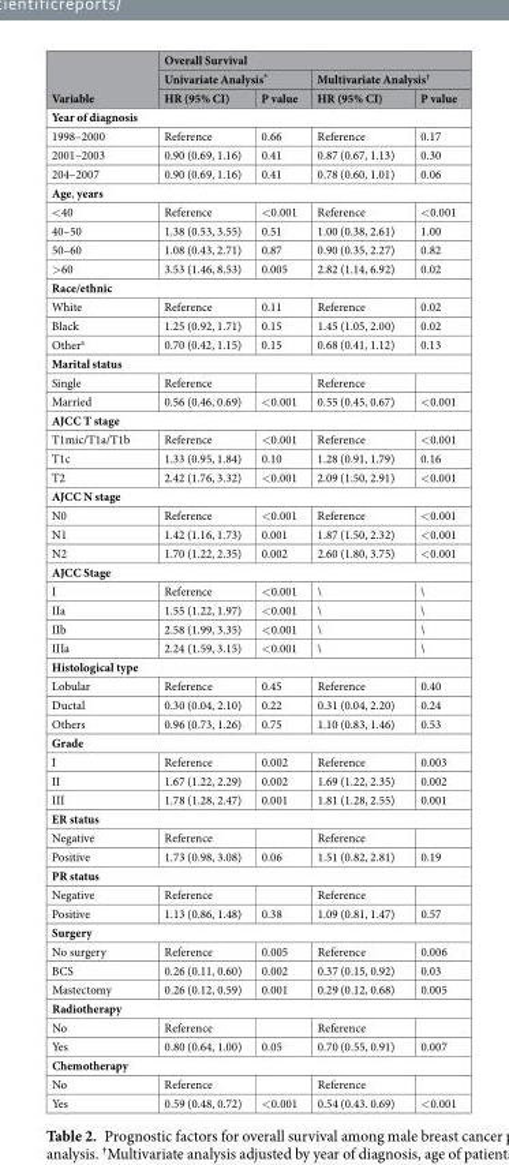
<table><thead><tr><td rowspan="3">Variable</td><td colspan="4">Overall Survival</td></tr><tr><td colspan="2">Univariate Analysis*</td><td colspan="2">Multivariate Analysis<sup>†</sup></td></tr><tr><td>HR (95% CI)</td><td>P value</td><td>HR (95% CI)</td><td>P value</td></tr></thead><tbody><tr><td colspan="5">Year of diagnosis</td></tr><tr><td>1998–2000</td><td>Reference</td><td>0.66</td><td>Reference</td><td>0.17</td></tr><tr><td>2001–2003</td><td>0.90 (0.69, 1.16)</td><td>0.41</td><td>0.87 (0.67, 1.13)</td><td>0.30</td></tr><tr><td>204–2007</td><td>0.90 (0.69, 1.16)</td><td>0.41</td><td>0.78 (0.60, 1.01)</td><td>0.06</td></tr><tr><td colspan="5">Age, years</td></tr><tr><td>&lt;40</td><td>Reference</td><td>&lt;0.001</td><td>Reference</td><td>&lt;0.001</td></tr><tr><td>40–50</td><td>1.38 (0.53, 3.55)</td><td>0.51</td><td>1.00 (0.38, 2.61)</td><td>1.00</td></tr><tr><td>50–60</td><td>1.08 (0.43, 2.71)</td><td>0.87</td><td>0.90 (0.35, 2.27)</td><td>0.82</td></tr><tr><td>&gt;60</td><td>3.53 (1.46, 8.53)</td><td>0.005</td><td>2.82 (1.14, 6.92)</td><td>0.02</td></tr><tr><td colspan="5">Race/ethnic</td></tr><tr><td>White</td><td>Reference</td><td>0.11</td><td>Reference</td><td>0.02</td></tr><tr><td>Black</td><td>1.25 (0.92, 1.71)</td><td>0.15</td><td>1.45 (1.05, 2.00)</td><td>0.02</td></tr><tr><td>Other<sup>a</sup></td><td>0.70 (0.42, 1.15)</td><td>0.15</td><td>0.68 (0.41, 1.12)</td><td>0.13</td></tr><tr><td colspan="5">Marital status</td></tr><tr><td>Single</td><td>Reference</td><td></td><td>Reference</td><td></td></tr><tr><td>Married</td><td>0.56 (0.46, 0.69)</td><td>&lt;0.001</td><td>0.55 (0.45, 0.67)</td><td>&lt;0.001</td></tr><tr><td colspan="5">AJCC T stage</td></tr><tr><td>T1mic/T1a/T1b</td><td>Reference</td><td>&lt;0.001</td><td>Reference</td><td>&lt;0.001</td></tr><tr><td>T1c</td><td>1.33 (0.95, 1.84)</td><td>0.10</td><td>1.28 (0.91, 1.79)</td><td>0.16</td></tr><tr><td>T2</td><td>2.42 (1.76, 3.32)</td><td>&lt;0.001</td><td>2.09 (1.50, 2.91)</td><td>&lt;0.001</td></tr><tr><td colspan="5">AJCC N stage</td></tr><tr><td>N0</td><td>Reference</td><td>&lt;0.001</td><td>Reference</td><td>&lt;0.001</td></tr><tr><td>N1</td><td>1.42 (1.16, 1.73)</td><td>0.001</td><td>1.87 (1.50, 2.32)</td><td>&lt;0.001</td></tr><tr><td>N2</td><td>1.70 (1.22, 2.35)</td><td>0.002</td><td>2.60 (1.80, 3.75)</td><td>&lt;0.001</td></tr><tr><td colspan="5">AJCC Stage</td></tr><tr><td>I</td><td>Reference</td><td>&lt;0.001</td><td>\</td><td>\</td></tr><tr><td>IIa</td><td>1.55 (1.22, 1.97)</td><td>&lt;0.001</td><td>\</td><td>\</td></tr><tr><td>IIb</td><td>2.58 (1.99, 3.35)</td><td>&lt;0.001</td><td>\</td><td>\</td></tr><tr><td>IIIa</td><td>2.24 (1.59, 3.15)</td><td>&lt;0.001</td><td>\</td><td>\</td></tr><tr><td colspan="5">Histological type</td></tr><tr><td>Lobular</td><td>Reference</td><td>0.45</td><td>Reference</td><td>0.40</td></tr><tr><td>Ductal</td><td>0.30 (0.04, 2.10)</td><td>0.22</td><td>0.31 (0.04, 2.20)</td><td>0.24</td></tr><tr><td>Others</td><td>0.96 (0.73, 1.26)</td><td>0.75</td><td>1.10 (0.83, 1.46)</td><td>0.53</td></tr><tr><td colspan="5">Grade</td></tr><tr><td>I</td><td>Reference</td><td>0.002</td><td>Reference</td><td>0.003</td></tr><tr><td>II</td><td>1.67 (1.22, 2.29)</td><td>0.002</td><td>1.69 (1.22, 2.35)</td><td>0.002</td></tr><tr><td>III</td><td>1.78 (1.28, 2.47)</td><td>0.001</td><td>1.81 (1.28, 2.55)</td><td>0.001</td></tr><tr><td colspan="5">ER status</td></tr><tr><td>Negative</td><td>Reference</td><td></td><td>Reference</td><td></td></tr><tr><td>Positive</td><td>1.73 (0.98, 3.08)</td><td>0.06</td><td>1.51 (0.82, 2.81)</td><td>0.19</td></tr><tr><td colspan="5">PR status</td></tr><tr><td>Negative</td><td>Reference</td><td></td><td>Reference</td><td></td></tr><tr><td>Positive</td><td>1.13 (0.86, 1.48)</td><td>0.38</td><td>1.09 (0.81, 1.47)</td><td>0.57</td></tr><tr><td colspan="5">Surgery</td></tr><tr><td>No surgery</td><td>Reference</td><td>0.005</td><td>Reference</td><td>0.006</td></tr><tr><td>BCS</td><td>0.26 (0.11, 0.60)</td><td>0.002</td><td>0.37 (0.15, 0.92)</td><td>0.03</td></tr><tr><td>Mastectomy</td><td>0.26 (0.12, 0.59)</td><td>0.001</td><td>0.29 (0.12, 0.68)</td><td>0.005</td></tr><tr><td colspan="5">Radiotherapy</td></tr><tr><td>No</td><td>Reference</td><td></td><td>Reference</td><td></td></tr><tr><td>Yes</td><td>0.80 (0.64, 1.00)</td><td>0.05</td><td>0.70 (0.55, 0.91)</td><td>0.007</td></tr><tr><td colspan="5">Chemotherapy</td></tr><tr><td>No</td><td>Reference</td><td></td><td>Reference</td><td></td></tr><tr><td>Yes</td><td>0.59 (0.48, 0.72)</td><td>&lt;0.001</td><td>0.54 (0.43. 0.69)</td><td>&lt;0.001</td></tr></tbody></table>